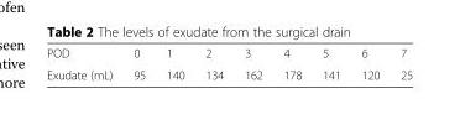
<table><tbody><tr><td>POD</td><td>0</td><td>1</td><td>2</td><td>3</td><td>4</td><td>5</td><td>6</td><td>7</td></tr><tr><td>Exudate (mL)</td><td>95</td><td>140</td><td>134</td><td>162</td><td>178</td><td>141</td><td>120</td><td>25</td></tr></tbody></table>